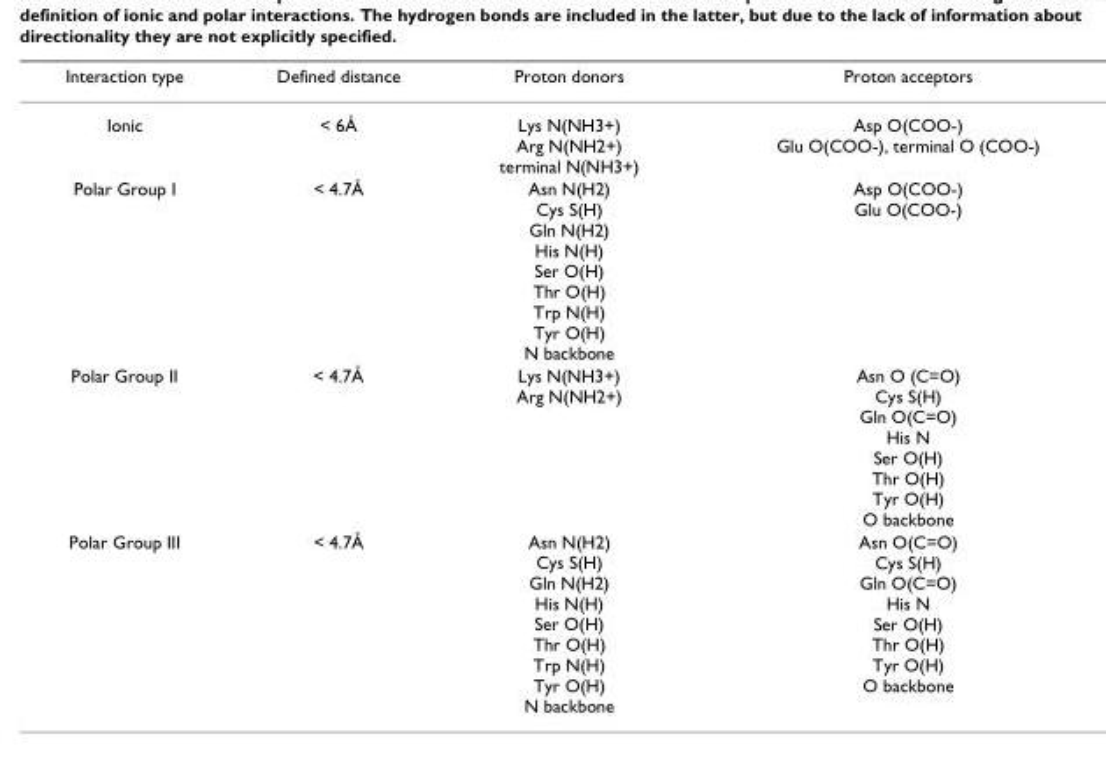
<table><thead><tr><td>Interaction type</td><td>Defined distance</td><td>Proton donors</td><td>Proton acceptors</td></tr></thead><tbody><tr><td>Ionic</td><td>&lt; 6Å</td><td>Lys N(NH3+) Arg N(NH2+) terminal N(NH3+)</td><td>Asp O(COO-) Glu O(COO-), terminal O (COO-)</td></tr><tr><td>Polar Group I</td><td>&lt; 4.7Å</td><td>Asn N(H2) Cys S(H) Gln N(H2) His N(H) Ser O(H) Thr O(H) Trp N(H) Tyr O(H) N backbone</td><td>Asp O(COO-) Glu O(COO-)</td></tr><tr><td>Polar Group II</td><td>&lt; 4.7Å</td><td>Lys N(NH3+) Arg N(NH2+)</td><td>Asn O (C=O) Cys S(H) Gln O(C=O) His N Ser O(H) Thr O(H) Tyr O(H) O backbone</td></tr><tr><td>Polar Group III</td><td>&lt; 4.7Å</td><td>Asn N(H2) Cys S(H) Gln N(H2) His N(H) Ser O(H) Thr O(H) Trp N(H) Tyr O(H) N backbone</td><td>Asn O(C=O) Cys S(H) Gln O(C=O) His N Ser O(H) Thr O(H) Tyr O(H) O backbone</td></tr></tbody></table>